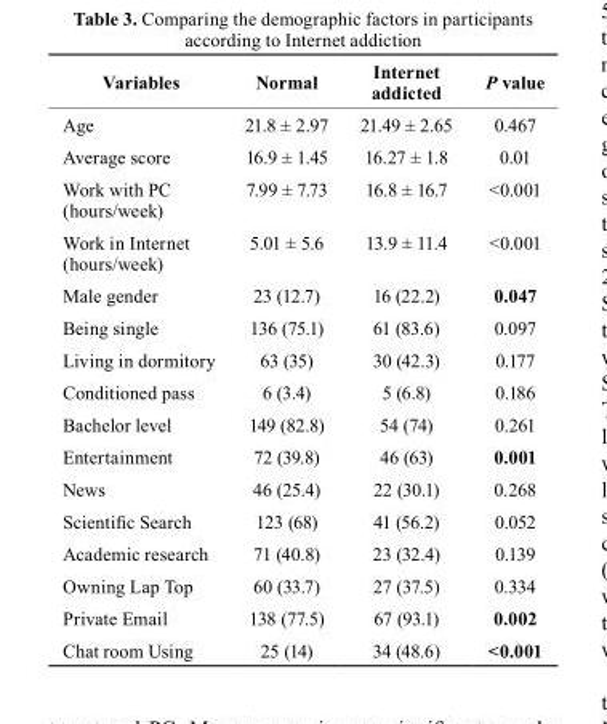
<table><thead><tr><td>Variables</td><td>Normal</td><td>Internet addicted</td><td>P value</td></tr></thead><tbody><tr><td>Age</td><td>21.8 ± 2.97</td><td>21.49 ± 2.65</td><td>0.467</td></tr><tr><td>Average score</td><td>16.9 ± 1.45</td><td>16.27 ± 1.8</td><td>0.01</td></tr><tr><td>Work with PC (hours/week)</td><td>7.99 ± 7.73</td><td>16.8 ± 16.7</td><td>&lt;0.001</td></tr><tr><td>Work in Internet (hours/week)</td><td>5.01 ± 5.6</td><td>13.9 ± 11.4</td><td>&lt;0.001</td></tr><tr><td>Male gender</td><td>23 (12.7)</td><td>16 (22.2)</td><td>0.047</td></tr><tr><td>Being single</td><td>136 (75.1)</td><td>61 (83.6)</td><td>0.097</td></tr><tr><td>Living in dormitory</td><td>63 (35)</td><td>30 (42.3)</td><td>0.177</td></tr><tr><td>Conditioned pass</td><td>6 (3.4)</td><td>5 (6.8)</td><td>0.186</td></tr><tr><td>Bachelor level</td><td>149 (82.8)</td><td>54 (74)</td><td>0.261</td></tr><tr><td>Entertainment</td><td>72 (39.8)</td><td>46 (63)</td><td>0.001</td></tr><tr><td>News</td><td>46 (25.4)</td><td>22 (30.1)</td><td>0.268</td></tr><tr><td>Scientific Search</td><td>123 (68)</td><td>41 (56.2)</td><td>0.052</td></tr><tr><td>Academic research</td><td>71 (40.8)</td><td>23 (32.4)</td><td>0.139</td></tr><tr><td>Owning Lap Top</td><td>60 (33.7)</td><td>27 (37.5)</td><td>0.334</td></tr><tr><td>Private Email</td><td>138 (77.5)</td><td>67 (93.1)</td><td>0.002</td></tr><tr><td>Chat room Using</td><td>25 (14)</td><td>34 (48.6)</td><td>&lt;0.001</td></tr></tbody></table>